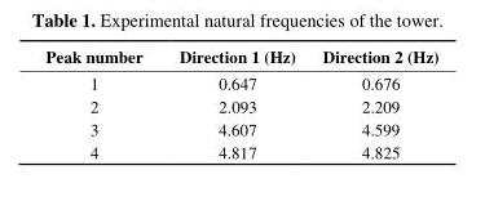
<table><thead><tr><td>Peak number</td><td>Direction 1 (Hz)</td><td>Direction 2 (Hz)</td></tr></thead><tbody><tr><td>1</td><td>0.647</td><td>0.676</td></tr><tr><td>2</td><td>2.093</td><td>2.209</td></tr><tr><td>3</td><td>4.607</td><td>4.599</td></tr><tr><td>4</td><td>4.817</td><td>4.825</td></tr></tbody></table>